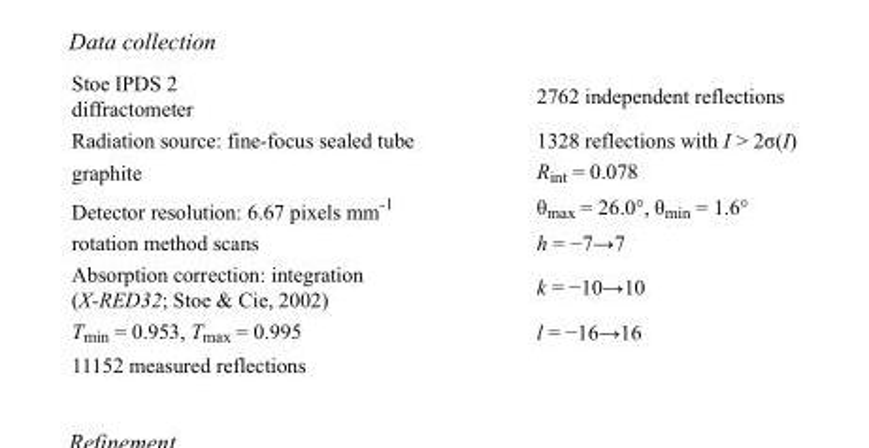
<table><tbody><tr><td>Stoe IPDS 2 diffractometer</td><td>2762 independent reflections</td></tr><tr><td>Radiation source: fine-focus sealed tube</td><td>1328 reflections with I &gt; 2σ(I)</td></tr><tr><td>graphite</td><td>R<sub>int</sub> = 0.078</td></tr><tr><td>Detector resolution: 6.67 pixels mm<sup>-1</sup></td><td>θ<sub>max</sub> = 26.0°, θ<sub>min</sub> = 1.6°</td></tr><tr><td>rotation method scans</td><td>h = −7→7</td></tr><tr><td>Absorption correction: integration (X-RED32; Stoe &amp; Cie, 2002)</td><td>k = −10→10</td></tr><tr><td>T<sub>min</sub> = 0.953, T<sub>max</sub> = 0.995</td><td>l = −16→16</td></tr><tr><td>11152 measured reflections</td><td></td></tr></tbody></table>